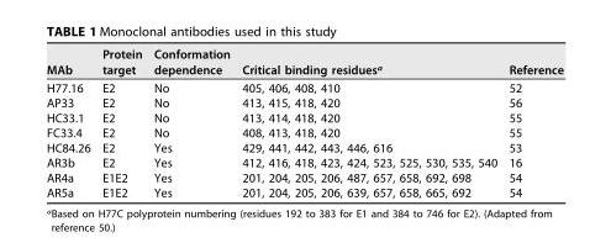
<table><thead><tr><td>MAb</td><td>Protein target</td><td>Conformation dependence</td><td>Critical binding residues<sup>a</sup></td><td>Reference</td></tr></thead><tbody><tr><td>H77.16</td><td>E2</td><td>No</td><td>405, 406, 408, 410</td><td>52</td></tr><tr><td>AP33</td><td>E2</td><td>No</td><td>413, 415, 418, 420</td><td>56</td></tr><tr><td>HC33.1</td><td>E2</td><td>No</td><td>413, 414, 418, 420</td><td>55</td></tr><tr><td>FC33.4</td><td>E2</td><td>No</td><td>408, 413, 418, 420</td><td>55</td></tr><tr><td>HC84.26</td><td>E2</td><td>Yes</td><td>429, 441, 442, 443, 446, 616</td><td>53</td></tr><tr><td>AR3b</td><td>E2</td><td>Yes</td><td>412, 416, 418, 423, 424, 523, 525, 530, 535, 540</td><td>16</td></tr><tr><td>AR4a</td><td>E1E2</td><td>Yes</td><td>201, 204, 205, 206, 487, 657, 658, 692, 698</td><td>54</td></tr><tr><td>AR5a</td><td>E1E2</td><td>Yes</td><td>201, 204, 205, 206, 639, 657, 658, 665, 692</td><td>54</td></tr></tbody></table>